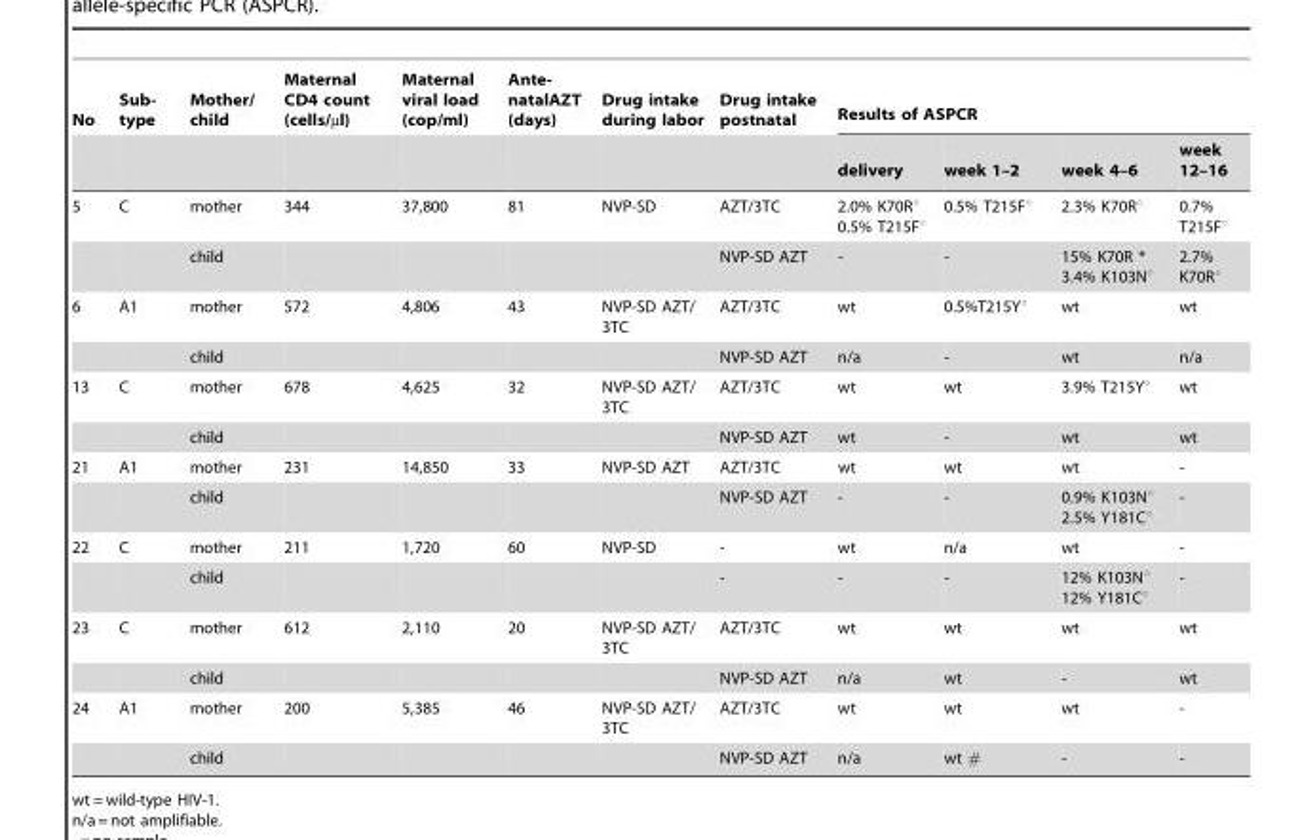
<table><thead><tr><td rowspan="2">No</td><td rowspan="2">Sub- type</td><td rowspan="2">Mother/ child</td><td rowspan="2">Maternal CD4 count (cells/µl)</td><td rowspan="2">Maternal viral load (cop/ml)</td><td rowspan="2">Ante- natalAZT (days)</td><td rowspan="2">Drug intake during labor</td><td rowspan="2">Drug intake postnatal</td><td colspan="4">Results of ASPCR</td></tr><tr><td>delivery</td><td>week 1–2</td><td>week 4–6</td><td>week 12–16</td></tr></thead><tbody><tr><td rowspan="2">5</td><td>C</td><td>mother</td><td>344</td><td>37,800</td><td>81</td><td>NVP-SD</td><td>AZT/3TC</td><td>2.0% K70R° 0.5% T215F°</td><td>0.5% T215F°</td><td>2.3% K70R°</td><td>0.7% T215F°</td></tr><tr><td></td><td>child</td><td></td><td></td><td></td><td></td><td>NVP-SD AZT</td><td>-</td><td>-</td><td>15% K70R * 3.4% K103N°</td><td>2.7% K70R°</td></tr><tr><td rowspan="2">6</td><td>A1</td><td>mother</td><td>572</td><td>4,806</td><td>43</td><td>NVP-SD AZT/ 3TC</td><td>AZT/3TC</td><td>wt</td><td>0.5%T215Y°</td><td>wt</td><td>wt</td></tr><tr><td></td><td>child</td><td></td><td></td><td></td><td></td><td>NVP-SD AZT</td><td>n/a</td><td>-</td><td>wt</td><td>n/a</td></tr><tr><td rowspan="2">13</td><td>C</td><td>mother</td><td>678</td><td>4,625</td><td>32</td><td>NVP-SD AZT/ 3TC</td><td>AZT/3TC</td><td>wt</td><td>wt</td><td>3.9% T215Y°</td><td>wt</td></tr><tr><td></td><td>child</td><td></td><td></td><td></td><td></td><td>NVP-SD AZT</td><td>wt</td><td>-</td><td>wt</td><td>wt</td></tr><tr><td rowspan="2">21</td><td>A1</td><td>mother</td><td>231</td><td>14,850</td><td>33</td><td>NVP-SD AZT</td><td>AZT/3TC</td><td>wt</td><td>wt</td><td>wt</td><td>-</td></tr><tr><td></td><td>child</td><td></td><td></td><td></td><td></td><td>NVP-SD AZT</td><td>-</td><td>-</td><td>0.9% K103N° 2.5% Y181C°</td><td>-</td></tr><tr><td rowspan="2">22</td><td>C</td><td>mother</td><td>211</td><td>1,720</td><td>60</td><td>NVP-SD</td><td>-</td><td>wt</td><td>n/a</td><td>wt</td><td>-</td></tr><tr><td></td><td>child</td><td></td><td></td><td></td><td></td><td>-</td><td>-</td><td>-</td><td>12% K103N° 12% Y181C°</td><td>-</td></tr><tr><td rowspan="2">23</td><td>C</td><td>mother</td><td>612</td><td>2,110</td><td>20</td><td>NVP-SD AZT/ 3TC</td><td>AZT/3TC</td><td>wt</td><td>wt</td><td>wt</td><td>wt</td></tr><tr><td></td><td>child</td><td></td><td></td><td></td><td></td><td>NVP-SD AZT</td><td>n/a</td><td>wt</td><td>-</td><td>wt</td></tr><tr><td rowspan="2">24</td><td>A1</td><td>mother</td><td>200</td><td>5,385</td><td>46</td><td>NVP-SD AZT/ 3TC</td><td>AZT/3TC</td><td>wt</td><td>wt</td><td>wt</td><td>-</td></tr><tr><td></td><td>child</td><td></td><td></td><td></td><td></td><td>NVP-SD AZT</td><td>n/a</td><td>wt #</td><td>-</td><td>-</td></tr></tbody></table>